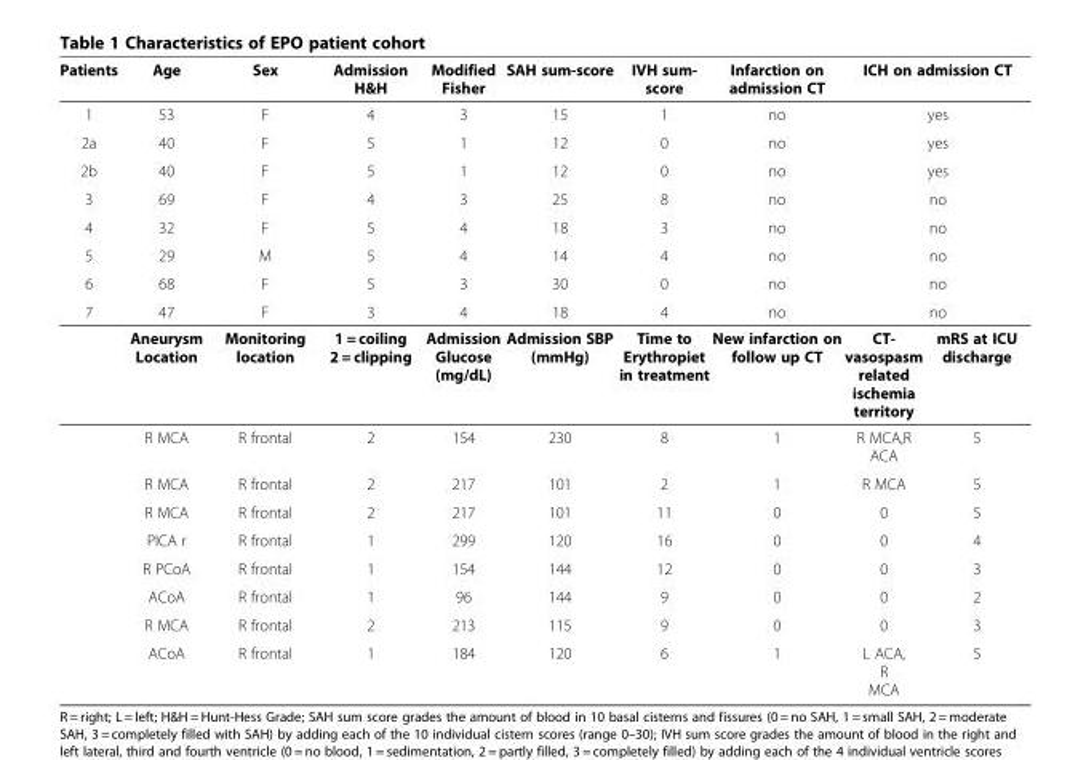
<table><tbody><tr><td>Patients</td><td>Age</td><td>Sex</td><td>Admission H&amp;H</td><td>Modified Fisher</td><td>SAH sum-score</td><td>IVH sum- score</td><td>Infarction on admission CT</td><td colspan="2">ICH on admission CT</td></tr><tr><td>1</td><td>53</td><td>F</td><td>4</td><td>3</td><td>15</td><td>1</td><td>no</td><td colspan="2">yes</td></tr><tr><td>2a</td><td>40</td><td>F</td><td>5</td><td>1</td><td>12</td><td>0</td><td>no</td><td colspan="2">yes</td></tr><tr><td>2b</td><td>40</td><td>F</td><td>5</td><td>1</td><td>12</td><td>0</td><td>no</td><td colspan="2">yes</td></tr><tr><td>3</td><td>69</td><td>F</td><td>4</td><td>3</td><td>25</td><td>8</td><td>no</td><td colspan="2">no</td></tr><tr><td>4</td><td>32</td><td>F</td><td>5</td><td>4</td><td>18</td><td>3</td><td>no</td><td colspan="2">no</td></tr><tr><td>5</td><td>29</td><td>M</td><td>5</td><td>4</td><td>14</td><td>4</td><td>no</td><td colspan="2">no</td></tr><tr><td>6</td><td>68</td><td>F</td><td>5</td><td>3</td><td>30</td><td>0</td><td>no</td><td colspan="2">no</td></tr><tr><td rowspan="10">7</td><td>47</td><td>F</td><td>3</td><td>4</td><td>18</td><td>4</td><td>no</td><td colspan="2">no</td></tr><tr><td>Aneurysm Location</td><td>Monitoring location</td><td>1 = coiling 2 = clipping</td><td>Admission Glucose (mg/dL)</td><td>Admission SBP (mmHg)</td><td>Time to Erythropiet in treatment</td><td>New infarction on follow up CT</td><td>CT- vasospasm related ischemia territory</td><td>mRS at ICU discharge</td></tr><tr><td>R MCA</td><td>R frontal</td><td>2</td><td>154</td><td>230</td><td>8</td><td>1</td><td>R MCA,R ACA</td><td>5</td></tr><tr><td>R MCA</td><td>R frontal</td><td>2</td><td>217</td><td>101</td><td>2</td><td>1</td><td>R MCA</td><td>5</td></tr><tr><td>R MCA</td><td>R frontal</td><td>2</td><td>217</td><td>101</td><td>11</td><td>0</td><td>0</td><td>5</td></tr><tr><td>PICA r</td><td>R frontal</td><td>1</td><td>299</td><td>120</td><td>16</td><td>0</td><td>0</td><td>4</td></tr><tr><td>R PCoA</td><td>R frontal</td><td>1</td><td>154</td><td>144</td><td>12</td><td>0</td><td>0</td><td>3</td></tr><tr><td>ACoA</td><td>R frontal</td><td>1</td><td>96</td><td>144</td><td>9</td><td>0</td><td>0</td><td>2</td></tr><tr><td>R MCA</td><td>R frontal</td><td>2</td><td>213</td><td>115</td><td>9</td><td>0</td><td>0</td><td>3</td></tr><tr><td>ACoA</td><td>R frontal</td><td>1</td><td>184</td><td>120</td><td>6</td><td>1</td><td>L ACA, R MCA</td><td>5</td></tr></tbody></table>